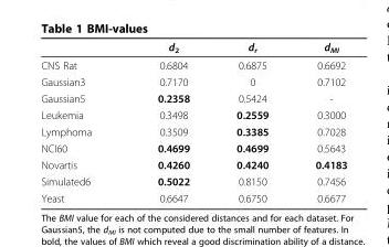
<table><thead><tr><td></td><td>d<sub>2</sub></td><td>d<sub>r</sub></td><td>d<sub>MI</sub></td></tr></thead><tbody><tr><td>CNS Rat</td><td>0.6804</td><td>0.6875</td><td>0.6692</td></tr><tr><td>Gaussian3</td><td>0.7170</td><td>0</td><td>0.7102</td></tr><tr><td>Gaussian5</td><td>0.2358</td><td>0.5424</td><td>-</td></tr><tr><td>Leukemia</td><td>0.3498</td><td>0.2559</td><td>0.3000</td></tr><tr><td>Lymphoma</td><td>0.3509</td><td>0.3385</td><td>0.7028</td></tr><tr><td>NCI60</td><td>0.4699</td><td>0.4699</td><td>0.5643</td></tr><tr><td>Novartis</td><td>0.4260</td><td>0.4240</td><td>0.4183</td></tr><tr><td>Simulated6</td><td>0.5022</td><td>0.8150</td><td>0.7456</td></tr><tr><td>Yeast</td><td>0.6647</td><td>0.6750</td><td>0.6677</td></tr></tbody></table>